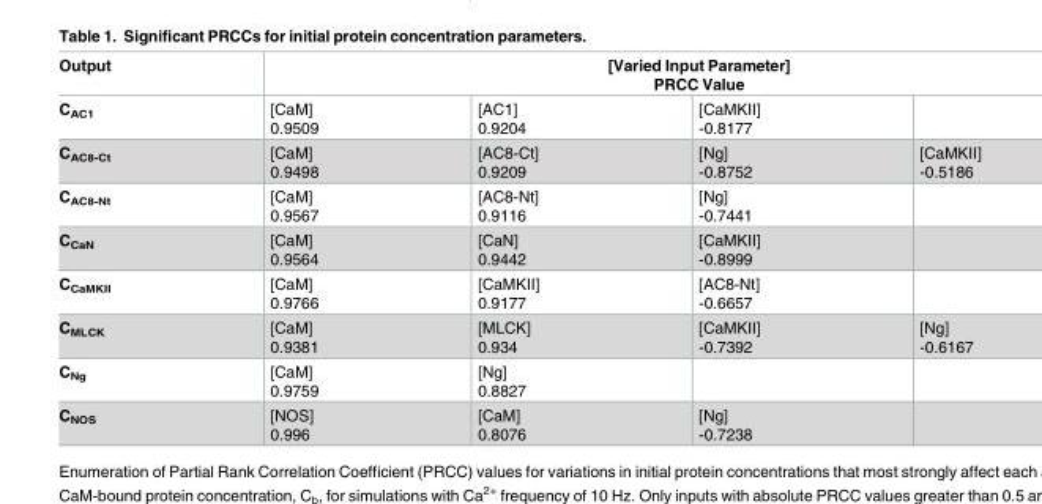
<table><thead><tr><td rowspan="2">Output C<sub>AC1</sub></td><td colspan="4">[Varied Input Parameter] PRCC Value</td></tr><tr><td>[CaM] 0.9509</td><td>[AC1] 0.9204</td><td>[CaMKII] -0.8177</td><td></td></tr></thead><tbody><tr><td>C<sub>AC8-Ct</sub></td><td>[CaM] 0.9498</td><td>[AC8-Ct] 0.9209</td><td>[Ng] -0.8752</td><td>[CaMKII] -0.5186</td></tr><tr><td>C<sub>AC8-Nt</sub></td><td>[CaM] 0.9567</td><td>[AC8-Nt] 0.9116</td><td>[Ng] -0.7441</td><td></td></tr><tr><td>C<sub>CaN</sub></td><td>[CaM] 0.9564</td><td>[CaN] 0.9442</td><td>[CaMKII] -0.8999</td><td></td></tr><tr><td>C<sub>CaMKII</sub></td><td>[CaM] 0.9766</td><td>[CaMKII] 0.9177</td><td>[AC8-Nt] -0.6657</td><td></td></tr><tr><td>C<sub>MLCK</sub></td><td>[CaM] 0.9381</td><td>[MLCK] 0.934</td><td>[CaMKII] -0.7392</td><td>[Ng] -0.6167</td></tr><tr><td>C<sub>Ng</sub></td><td>[CaM] 0.9759</td><td>[Ng] 0.8827</td><td></td><td></td></tr><tr><td>C<sub>NOS</sub></td><td>[NOS] 0.996</td><td>[CaM] 0.8076</td><td>[Ng] -0.7238</td><td></td></tr></tbody></table>